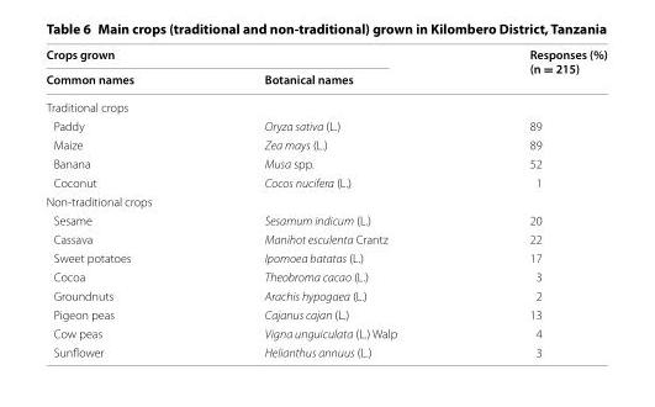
<table><thead><tr><td colspan="2">Crops grown</td><td rowspan="2">Responses (%) (n = 215)</td></tr><tr><td>Common names</td><td>Botanical names</td></tr></thead><tbody><tr><td colspan="3">Traditional crops</td></tr><tr><td>Paddy</td><td>Oryza sativa (L.)</td><td>89</td></tr><tr><td>Maize</td><td>Zea mays (L.)</td><td>89</td></tr><tr><td>Banana</td><td>Musa spp.</td><td>52</td></tr><tr><td>Coconut</td><td>Cocos nucifera (L.)</td><td>1</td></tr><tr><td colspan="3">Non-traditional crops</td></tr><tr><td>Sesame</td><td>Sesamum indicum (L.)</td><td>20</td></tr><tr><td>Cassava</td><td>Manihot esculenta Crantz</td><td>22</td></tr><tr><td>Sweet potatoes</td><td>Ipomoea batatas (L.)</td><td>17</td></tr><tr><td>Cocoa</td><td>Theobroma cacao (L.)</td><td>3</td></tr><tr><td>Groundnuts</td><td>Arachis hypogaea (L.)</td><td>2</td></tr><tr><td>Pigeon peas</td><td>Cajanus cajan (L.)</td><td>13</td></tr><tr><td>Cow peas</td><td>Vigna unguiculata (L.) Walp</td><td>4</td></tr><tr><td>Sunflower</td><td>Helianthus annuus (L.)</td><td>3</td></tr></tbody></table>